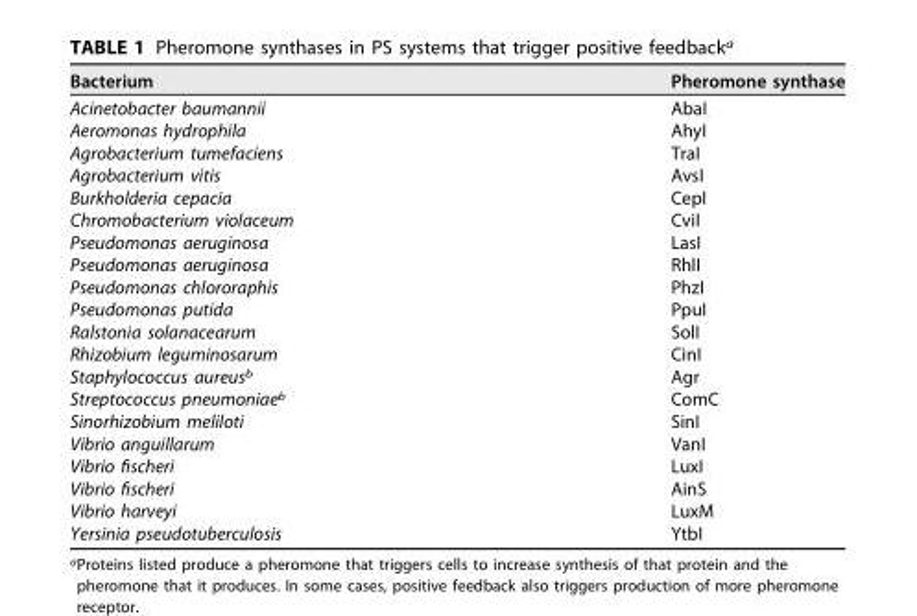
<table><thead><tr><td>Bacterium</td><td>Pheromone synthase</td></tr></thead><tbody><tr><td>Acinetobacter baumannii</td><td>AbaI</td></tr><tr><td>Aeromonas hydrophila</td><td>AhyI</td></tr><tr><td>Agrobacterium tumefaciens</td><td>TraI</td></tr><tr><td>Agrobacterium vitis</td><td>AvsI</td></tr><tr><td>Burkholderia cepacia</td><td>CepI</td></tr><tr><td>Chromobacterium violaceum</td><td>CviI</td></tr><tr><td>Pseudomonas aeruginosa</td><td>LasI</td></tr><tr><td>Pseudomonas aeruginosa</td><td>RhlI</td></tr><tr><td>Pseudomonas chlororaphis</td><td>PhzI</td></tr><tr><td>Pseudomonas putida</td><td>PpuI</td></tr><tr><td>Ralstonia solanacearum</td><td>SolI</td></tr><tr><td>Rhizobium leguminosarum</td><td>CinI</td></tr><tr><td>Staphylococcus aureus<sup>b</sup></td><td>Agr</td></tr><tr><td>Streptococcus pneumoniae<sup>b</sup></td><td>ComC</td></tr><tr><td>Sinorhizobium meliloti</td><td>SinI</td></tr><tr><td>Vibrio anguillarum</td><td>VanI</td></tr><tr><td>Vibrio fischeri</td><td>LuxI</td></tr><tr><td>Vibrio fischeri</td><td>AinS</td></tr><tr><td>Vibrio harveyi</td><td>LuxM</td></tr><tr><td>Yersinia pseudotuberculosis</td><td>YtbI</td></tr></tbody></table>